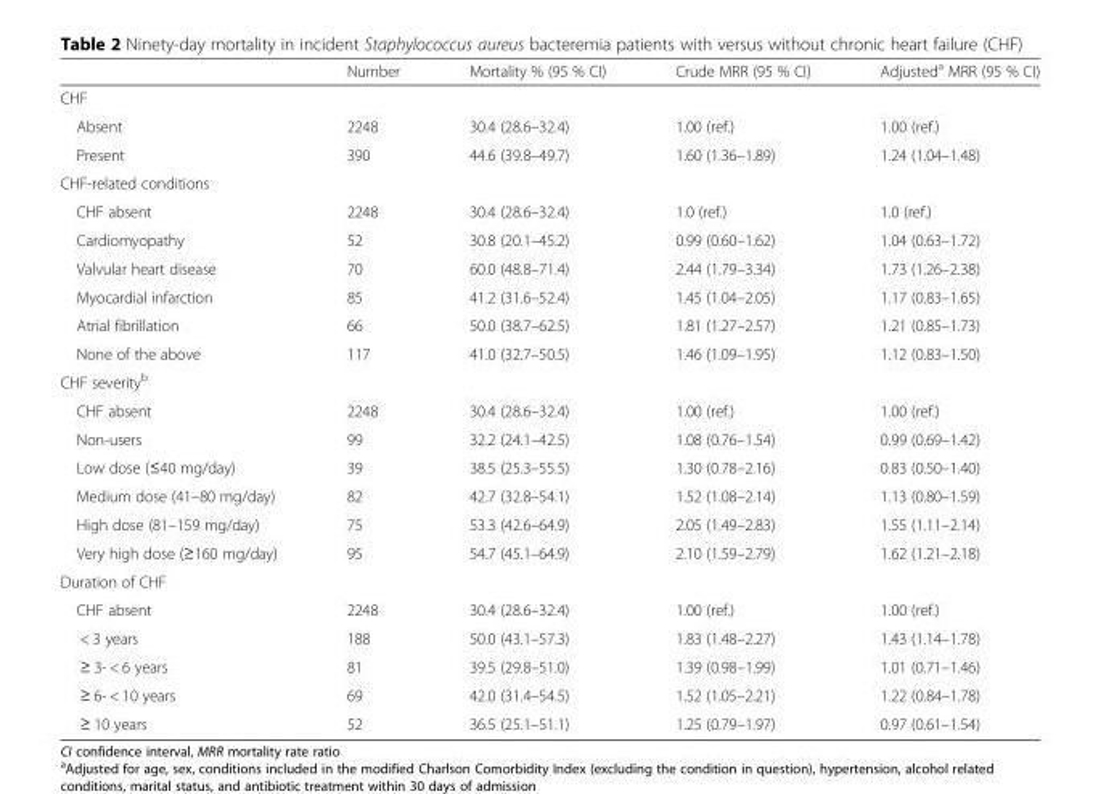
<table><thead><tr><td></td><td>Number</td><td>Mortality % (95 % CI)</td><td>Crude MRR (95 % CI)</td><td>Adjusted<sup>a</sup> MRR (95 % CI)</td></tr></thead><tbody><tr><td colspan="5">CHF</td></tr><tr><td>Absent</td><td>2248</td><td>30.4 (28.6–32.4)</td><td>1.00 (ref.)</td><td>1.00 (ref.)</td></tr><tr><td>Present</td><td>390</td><td>44.6 (39.8–49.7)</td><td>1.60 (1.36–1.89)</td><td>1.24 (1.04–1.48)</td></tr><tr><td colspan="5">CHF-related conditions</td></tr><tr><td>CHF absent</td><td>2248</td><td>30.4 (28.6–32.4)</td><td>1.0 (ref.)</td><td>1.0 (ref.)</td></tr><tr><td>Cardiomyopathy</td><td>52</td><td>30.8 (20.1–45.2)</td><td>0.99 (0.60–1.62)</td><td>1.04 (0.63–1.72)</td></tr><tr><td>Valvular heart disease</td><td>70</td><td>60.0 (48.8–71.4)</td><td>2.44 (1.79–3.34)</td><td>1.73 (1.26–2.38)</td></tr><tr><td>Myocardial infarction</td><td>85</td><td>41.2 (31.6–52.4)</td><td>1.45 (1.04–2.05)</td><td>1.17 (0.83–1.65)</td></tr><tr><td>Atrial fibrillation</td><td>66</td><td>50.0 (38.7–62.5)</td><td>1.81 (1.27–2.57)</td><td>1.21 (0.85–1.73)</td></tr><tr><td>None of the above</td><td>117</td><td>41.0 (32.7–50.5)</td><td>1.46 (1.09–1.95)</td><td>1.12 (0.83–1.50)</td></tr><tr><td colspan="5">CHF severity<sup>b</sup></td></tr><tr><td>CHF absent</td><td>2248</td><td>30.4 (28.6–32.4)</td><td>1.00 (ref.)</td><td>1.00 (ref.)</td></tr><tr><td>Non-users</td><td>99</td><td>32.2 (24.1–42.5)</td><td>1.08 (0.76–1.54)</td><td>0.99 (0.69–1.42)</td></tr><tr><td>Low dose (≤40 mg/day)</td><td>39</td><td>38.5 (25.3–55.5)</td><td>1.30 (0.78–2.16)</td><td>0.83 (0.50–1.40)</td></tr><tr><td>Medium dose (41–80 mg/day)</td><td>82</td><td>42.7 (32.8–54.1)</td><td>1.52 (1.08–2.14)</td><td>1.13 (0.80–1.59)</td></tr><tr><td>High dose (81–159 mg/day)</td><td>75</td><td>53.3 (42.6–64.9)</td><td>2.05 (1.49–2.83)</td><td>1.55 (1.11–2.14)</td></tr><tr><td>Very high dose (≥160 mg/day)</td><td>95</td><td>54.7 (45.1–64.9)</td><td>2.10 (1.59–2.79)</td><td>1.62 (1.21–2.18)</td></tr><tr><td colspan="5">Duration of CHF</td></tr><tr><td>CHF absent</td><td>2248</td><td>30.4 (28.6–32.4)</td><td>1.00 (ref.)</td><td>1.00 (ref.)</td></tr><tr><td>&lt; 3 years</td><td>188</td><td>50.0 (43.1–57.3)</td><td>1.83 (1.48–2.27)</td><td>1.43 (1.14–1.78)</td></tr><tr><td>≥ 3- &lt; 6 years</td><td>81</td><td>39.5 (29.8–51.0)</td><td>1.39 (0.98–1.99)</td><td>1.01 (0.71–1.46)</td></tr><tr><td>≥ 6- &lt; 10 years</td><td>69</td><td>42.0 (31.4–54.5)</td><td>1.52 (1.05–2.21)</td><td>1.22 (0.84–1.78)</td></tr><tr><td>≥ 10 years</td><td>52</td><td>36.5 (25.1–51.1)</td><td>1.25 (0.79–1.97)</td><td>0.97 (0.61–1.54)</td></tr></tbody></table>